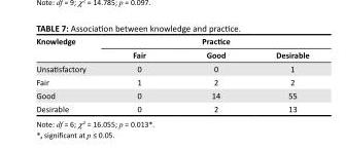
<table><thead><tr><td rowspan="2">Knowledge</td><td colspan="3">Practice</td></tr><tr><td>Fair</td><td>Good</td><td>Desirable</td></tr></thead><tbody><tr><td>Unsatisfactory</td><td>0</td><td>0</td><td>1</td></tr><tr><td>Fair</td><td>1</td><td>2</td><td>2</td></tr><tr><td>Good</td><td>0</td><td>14</td><td>55</td></tr><tr><td>Desirable</td><td>0</td><td>2</td><td>13</td></tr></tbody></table>